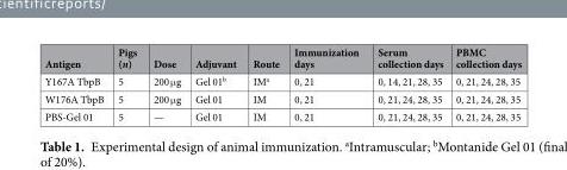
<table><thead><tr><td>Antigen</td><td>Pigs (n)</td><td>Dose</td><td>Adjuvant</td><td>Route</td><td>Immunization days</td><td>Serum collection days</td><td>PBMC collection days</td></tr></thead><tbody><tr><td>Y167A TbpB</td><td>5</td><td>200 μg</td><td>Gel 01<sup>b</sup></td><td>IM<sup>a</sup></td><td>0, 21</td><td>0, 14, 21, 28, 35</td><td>0, 21, 24, 28, 35</td></tr><tr><td>W176A TbpB</td><td>5</td><td>200 μg</td><td>Gel 01</td><td>IM</td><td>0, 21</td><td>0, 21, 24, 28, 35</td><td>0, 21, 24, 28, 35</td></tr><tr><td>PBS-Gel 01</td><td>5</td><td>—</td><td>Gel 01</td><td>IM</td><td>0, 21</td><td>0, 21, 24, 28, 35</td><td>0, 21, 24, 28, 35</td></tr></tbody></table>